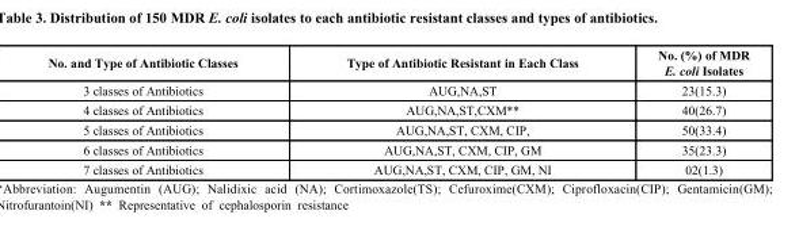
<table><thead><tr><td>No. and Type of Antibiotic Classes</td><td>Type of Antibiotic Resistant in Each Class</td><td>No. (%) of MDR E. coli Isolates</td></tr></thead><tbody><tr><td>3 classes of Antibiotics</td><td>AUG,NA,ST</td><td>23(15.3)</td></tr><tr><td>4 classes of Antibiotics</td><td>AUG,NA,ST,CXM**</td><td>40(26.7)</td></tr><tr><td>5 classes of Antibiotics</td><td>AUG,NA,ST, CXM, CIP,</td><td>50(33.4)</td></tr><tr><td>6 classes of Antibiotics</td><td>AUG,NA,ST, CXM, CIP, GM</td><td>35(23.3)</td></tr><tr><td>7 classes of Antibiotics</td><td>AUG,NA,ST, CXM, CIP, GM, NI</td><td>02(1.3)</td></tr></tbody></table>